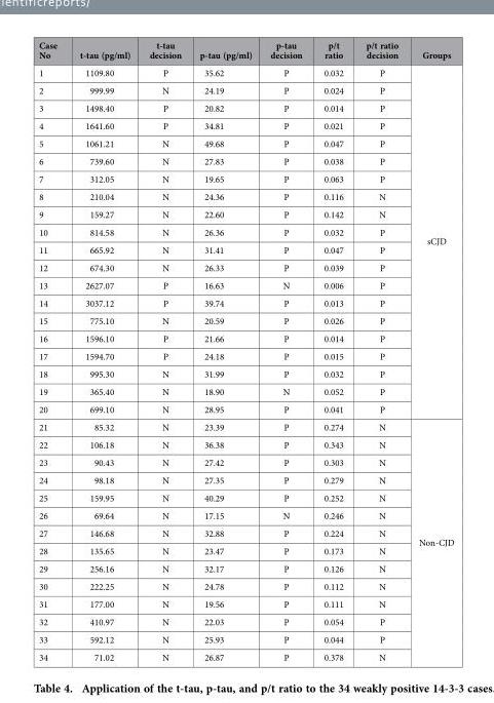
<table><thead><tr><td>Case No</td><td>t-tau (pg/ml)</td><td>t-tau decision</td><td>p-tau (pg/ml)</td><td>p-tau decision</td><td>p/t ratio</td><td>p/t ratio decision</td><td>Groups</td></tr></thead><tbody><tr><td>1</td><td>1109.80</td><td>P</td><td>35.62</td><td>P</td><td>0.032</td><td>P</td><td rowspan="20">sCJD</td></tr><tr><td>2</td><td>999.99</td><td>N</td><td>24.19</td><td>P</td><td>0.024</td><td>P</td></tr><tr><td>3</td><td>1498.40</td><td>P</td><td>20.82</td><td>P</td><td>0.014</td><td>P</td></tr><tr><td>4</td><td>1641.60</td><td>P</td><td>34.81</td><td>P</td><td>0.021</td><td>P</td></tr><tr><td>5</td><td>1061.21</td><td>N</td><td>49.68</td><td>P</td><td>0.047</td><td>P</td></tr><tr><td>6</td><td>739.60</td><td>N</td><td>27.83</td><td>P</td><td>0.038</td><td>P</td></tr><tr><td>7</td><td>312.05</td><td>N</td><td>19.65</td><td>P</td><td>0.063</td><td>P</td></tr><tr><td>8</td><td>210.04</td><td>N</td><td>24.36</td><td>P</td><td>0.116</td><td>N</td></tr><tr><td>9</td><td>159.27</td><td>N</td><td>22.60</td><td>P</td><td>0.142</td><td>N</td></tr><tr><td>10</td><td>814.58</td><td>N</td><td>26.36</td><td>P</td><td>0.032</td><td>P</td></tr><tr><td>11</td><td>665.92</td><td>N</td><td>31.41</td><td>P</td><td>0.047</td><td>P</td></tr><tr><td>12</td><td>674.30</td><td>N</td><td>26.33</td><td>P</td><td>0.039</td><td>P</td></tr><tr><td>13</td><td>2627.07</td><td>P</td><td>16.63</td><td>N</td><td>0.006</td><td>P</td></tr><tr><td>14</td><td>3037.12</td><td>P</td><td>39.74</td><td>P</td><td>0.013</td><td>P</td></tr><tr><td>15</td><td>775.10</td><td>N</td><td>20.59</td><td>P</td><td>0.026</td><td>P</td></tr><tr><td>16</td><td>1596.10</td><td>P</td><td>21.66</td><td>P</td><td>0.014</td><td>P</td></tr><tr><td>17</td><td>1594.70</td><td>P</td><td>24.18</td><td>P</td><td>0.015</td><td>P</td></tr><tr><td>18</td><td>995.30</td><td>N</td><td>31.99</td><td>P</td><td>0.032</td><td>P</td></tr><tr><td>19</td><td>365.40</td><td>N</td><td>18.90</td><td>N</td><td>0.052</td><td>P</td></tr><tr><td>20</td><td>699.10</td><td>N</td><td>28.95</td><td>P</td><td>0.041</td><td>P</td></tr><tr><td>21</td><td>85.32</td><td>N</td><td>23.39</td><td>P</td><td>0.274</td><td>N</td><td rowspan="14">Non-CJD</td></tr><tr><td>22</td><td>106.18</td><td>N</td><td>36.38</td><td>P</td><td>0.343</td><td>N</td></tr><tr><td>23</td><td>90.43</td><td>N</td><td>27.42</td><td>P</td><td>0.303</td><td>N</td></tr><tr><td>24</td><td>98.18</td><td>N</td><td>27.35</td><td>P</td><td>0.279</td><td>N</td></tr><tr><td>25</td><td>159.95</td><td>N</td><td>40.29</td><td>P</td><td>0.252</td><td>N</td></tr><tr><td>26</td><td>69.64</td><td>N</td><td>17.15</td><td>N</td><td>0.246</td><td>N</td></tr><tr><td>27</td><td>146.68</td><td>N</td><td>32.88</td><td>P</td><td>0.224</td><td>N</td></tr><tr><td>28</td><td>135.65</td><td>N</td><td>23.47</td><td>P</td><td>0.173</td><td>N</td></tr><tr><td>29</td><td>256.16</td><td>N</td><td>32.17</td><td>P</td><td>0.126</td><td>N</td></tr><tr><td>30</td><td>222.25</td><td>N</td><td>24.78</td><td>P</td><td>0.112</td><td>N</td></tr><tr><td>31</td><td>177.00</td><td>N</td><td>19.56</td><td>P</td><td>0.111</td><td>N</td></tr><tr><td>32</td><td>410.97</td><td>N</td><td>22.03</td><td>P</td><td>0.054</td><td>P</td></tr><tr><td>33</td><td>592.12</td><td>N</td><td>25.93</td><td>P</td><td>0.044</td><td>P</td></tr><tr><td>34</td><td>71.02</td><td>N</td><td>26.87</td><td>P</td><td>0.378</td><td>N</td></tr></tbody></table>